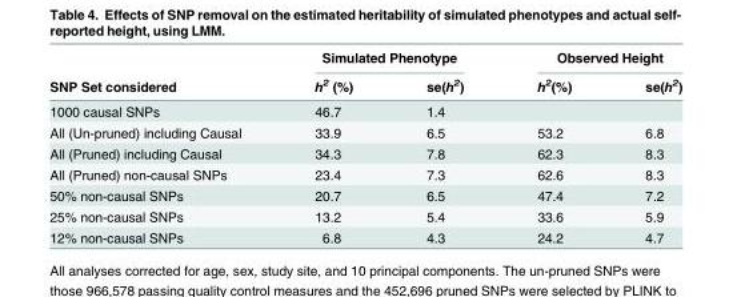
<table><thead><tr><td rowspan="2">SNP Set considered</td><td colspan="2">Simulated Phenotype</td><td colspan="2">Observed Height</td></tr><tr><td>h<sup>2</sup> (%)</td><td>se(h<sup>2</sup>)</td><td>h<sup>2</sup>(%)</td><td>se(h<sup>2</sup>)</td></tr></thead><tbody><tr><td>1000 causal SNPs</td><td>46.7</td><td>1.4</td><td></td><td></td></tr><tr><td>All (Un-pruned) including Causal</td><td>33.9</td><td>6.5</td><td>53.2</td><td>6.8</td></tr><tr><td>All (Pruned) including Causal</td><td>34.3</td><td>7.8</td><td>62.3</td><td>8.3</td></tr><tr><td>All (Pruned) non-causal SNPs</td><td>23.4</td><td>7.3</td><td>62.6</td><td>8.3</td></tr><tr><td>50% non-causal SNPs</td><td>20.7</td><td>6.5</td><td>47.4</td><td>7.2</td></tr><tr><td>25% non-causal SNPs</td><td>13.2</td><td>5.4</td><td>33.6</td><td>5.9</td></tr><tr><td>12% non-causal SNPs</td><td>6.8</td><td>4.3</td><td>24.2</td><td>4.7</td></tr></tbody></table>